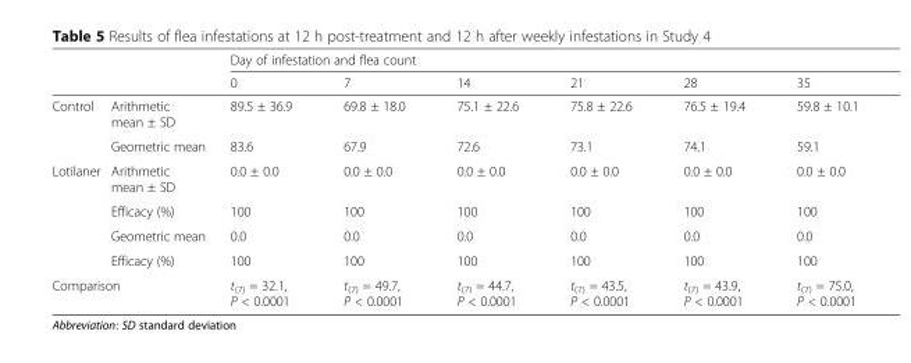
<table><thead><tr><td rowspan="2"></td><td rowspan="2"></td><td colspan="6">Day of infestation and flea count</td></tr><tr><td>0</td><td>7</td><td>14</td><td>21</td><td>28</td><td>35</td></tr></thead><tbody><tr><td rowspan="2">Control</td><td>Arithmetic mean ± SD</td><td>89.5 ± 36.9</td><td>69.8 ± 18.0</td><td>75.1 ± 22.6</td><td>75.8 ± 22.6</td><td>76.5 ± 19.4</td><td>59.8 ± 10.1</td></tr><tr><td>Geometric mean</td><td>83.6</td><td>67.9</td><td>72.6</td><td>73.1</td><td>74.1</td><td>59.1</td></tr><tr><td rowspan="4">Lotilaner</td><td>Arithmetic mean ± SD</td><td>0.0 ± 0.0</td><td>0.0 ± 0.0</td><td>0.0 ± 0.0</td><td>0.0 ± 0.0</td><td>0.0 ± 0.0</td><td>0.0 ± 0.0</td></tr><tr><td>Efficacy (%)</td><td>100</td><td>100</td><td>100</td><td>100</td><td>100</td><td>100</td></tr><tr><td>Geometric mean</td><td>0.0</td><td>0.0</td><td>0.0</td><td>0.0</td><td>0.0</td><td>0.0</td></tr><tr><td>Efficacy (%)</td><td>100</td><td>100</td><td>100</td><td>100</td><td>100</td><td>100</td></tr><tr><td colspan="2">Comparison</td><td>t<sub>(7)</sub> = 32.1, P &lt; 0.0001</td><td>t<sub>(7)</sub> = 49.7, P &lt; 0.0001</td><td>t<sub>(7)</sub> = 44.7, P &lt; 0.0001</td><td>t<sub>(7)</sub> = 43.5, P &lt; 0.0001</td><td>t<sub>(7)</sub> = 43.9, P &lt; 0.0001</td><td>t<sub>(7)</sub> = 75.0, P &lt; 0.0001</td></tr></tbody></table>